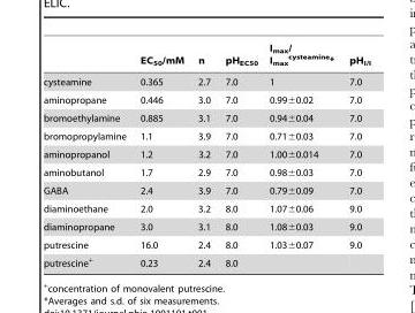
<table><thead><tr><td></td><td>EC<sub>50</sub>/mM</td><td>n</td><td>pH<sub>EC50</sub></td><td>I<sub>max</sub>/ I<sub>max</sub> <sup>cysteamine</sup>*</td><td>pH<sub>I/I</sub></td></tr></thead><tbody><tr><td>cysteamine</td><td>0.365</td><td>2.7</td><td>7.0</td><td>1</td><td>7.0</td></tr><tr><td>aminopropane</td><td>0.446</td><td>3.0</td><td>7.0</td><td>0.99±0.02</td><td>7.0</td></tr><tr><td>bromoethylamine</td><td>0.885</td><td>3.1</td><td>7.0</td><td>0.94±0.04</td><td>7.0</td></tr><tr><td>bromopropylamine</td><td>1.1</td><td>3.9</td><td>7.0</td><td>0.71±0.03</td><td>7.0</td></tr><tr><td>aminopropanol</td><td>1.2</td><td>3.2</td><td>7.0</td><td>1.00±0.014</td><td>7.0</td></tr><tr><td>aminobutanol</td><td>1.7</td><td>2.9</td><td>7.0</td><td>0.98±0.03</td><td>7.0</td></tr><tr><td>GABA</td><td>2.4</td><td>3.9</td><td>7.0</td><td>0.79±0.09</td><td>7.0</td></tr><tr><td>diaminoethane</td><td>2.0</td><td>3.2</td><td>8.0</td><td>1.07±0.06</td><td>9.0</td></tr><tr><td>diaminopropane</td><td>3.0</td><td>3.1</td><td>8.0</td><td>1.08±0.03</td><td>9.0</td></tr><tr><td>putrescine</td><td>16.0</td><td>2.4</td><td>8.0</td><td>1.03±0.07</td><td>9.0</td></tr><tr><td>putrescine+</td><td>0.23</td><td>2.4</td><td>8.0</td><td></td><td></td></tr></tbody></table>